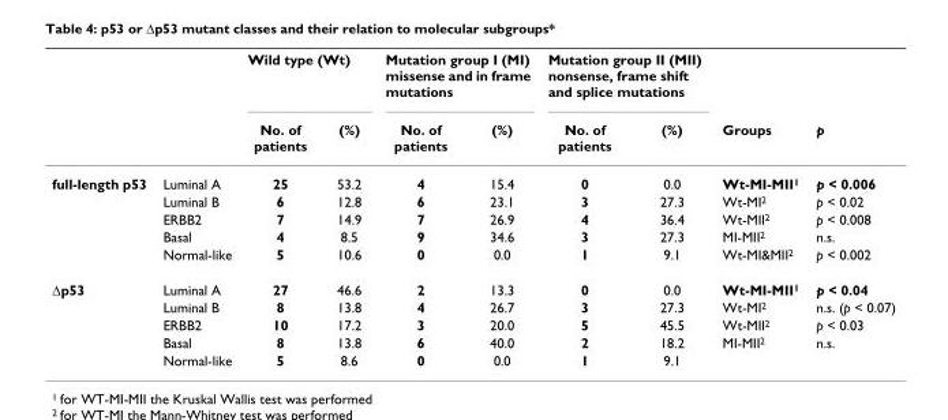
<table><thead><tr><td rowspan="2"></td><td rowspan="2"></td><td colspan="2">Wild type (Wt)</td><td colspan="2">Mutation group I (MI) missense and in frame mutations</td><td colspan="2">Mutation group II (MII) nonsense, frame shift and splice mutations</td><td rowspan="2">Groups</td><td rowspan="2">p</td></tr><tr><td>No. of patients</td><td>(%)</td><td>No. of patients</td><td>(%)</td><td>No. of patients</td><td>(%)</td></tr></thead><tbody><tr><td rowspan="5">full-length p53</td><td>Luminal A</td><td>25</td><td>53.2</td><td>4</td><td>15.4</td><td>0</td><td>0.0</td><td>Wt-MI-MII<sup>1</sup></td><td>p &lt; 0.006</td></tr><tr><td>Luminal B</td><td>6</td><td>12.8</td><td>6</td><td>23.1</td><td>3</td><td>27.3</td><td>Wt-MI<sup>2</sup></td><td>p &lt; 0.02</td></tr><tr><td>ERBB2</td><td>7</td><td>14.9</td><td>7</td><td>26.9</td><td>4</td><td>36.4</td><td>Wt-MII<sup>2</sup></td><td>p &lt; 0.008</td></tr><tr><td>Basal</td><td>4</td><td>8.5</td><td>9</td><td>34.6</td><td>3</td><td>27.3</td><td>MI-MII<sup>2</sup></td><td>n.s.</td></tr><tr><td>Normal-like</td><td>5</td><td>10.6</td><td>0</td><td>0.0</td><td>1</td><td>9.1</td><td>Wt-MI&amp;MII<sup>2</sup></td><td>p &lt; 0.002</td></tr><tr><td rowspan="5">Δp53</td><td>Luminal A</td><td>27</td><td>46.6</td><td>2</td><td>13.3</td><td>0</td><td>0.0</td><td>Wt-MI-MII<sup>1</sup></td><td>p &lt; 0.04</td></tr><tr><td>Luminal B</td><td>8</td><td>13.8</td><td>4</td><td>26.7</td><td>3</td><td>27.3</td><td>Wt-MI<sup>2</sup></td><td>n.s. (p &lt; 0.07)</td></tr><tr><td>ERBB2</td><td>10</td><td>17.2</td><td>3</td><td>20.0</td><td>5</td><td>45.5</td><td>Wt-MII<sup>2</sup></td><td>p &lt; 0.03</td></tr><tr><td>Basal</td><td>8</td><td>13.8</td><td>6</td><td>40.0</td><td>2</td><td>18.2</td><td>MI-MII<sup>2</sup></td><td>n.s.</td></tr><tr><td>Normal-like</td><td>5</td><td>8.6</td><td>0</td><td>0.0</td><td>1</td><td>9.1</td><td></td><td></td></tr></tbody></table>